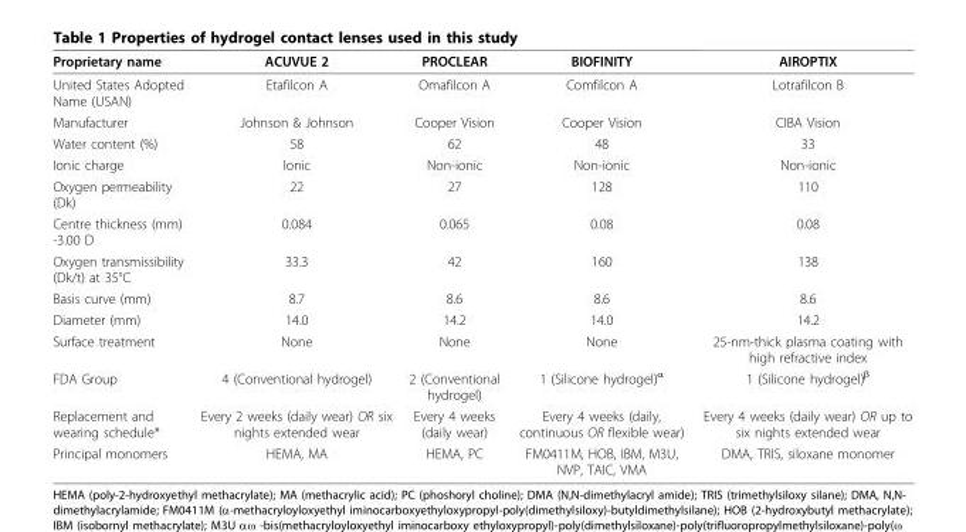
<table><thead><tr><td>Proprietary name</td><td>ACUVUE 2</td><td>PROCLEAR</td><td>BIOFINITY</td><td>AIROPTIX</td></tr></thead><tbody><tr><td>United States Adopted Name (USAN)</td><td>Etafilcon A</td><td>Omafilcon A</td><td>Comfilcon A</td><td>Lotrafilcon B</td></tr><tr><td>Manufacturer</td><td>Johnson &amp; Johnson</td><td>Cooper Vision</td><td>Cooper Vision</td><td>CIBA Vision</td></tr><tr><td>Water content (%)</td><td>58</td><td>62</td><td>48</td><td>33</td></tr><tr><td>Ionic charge</td><td>Ionic</td><td>Non-ionic</td><td>Non-ionic</td><td>Non-ionic</td></tr><tr><td>Oxygen permeability (Dk)</td><td>22</td><td>27</td><td>128</td><td>110</td></tr><tr><td>Centre thickness (mm) -3.00 D</td><td>0.084</td><td>0.065</td><td>0.08</td><td>0.08</td></tr><tr><td>Oxygen transmissibility (Dk/t) at 35°C</td><td>33.3</td><td>42</td><td>160</td><td>138</td></tr><tr><td>Basis curve (mm)</td><td>8.7</td><td>8.6</td><td>8.6</td><td>8.6</td></tr><tr><td>Diameter (mm)</td><td>14.0</td><td>14.2</td><td>14.0</td><td>14.2</td></tr><tr><td>Surface treatment</td><td>None</td><td>None</td><td>None</td><td>25-nm-thick plasma coating with high refractive index</td></tr><tr><td>FDA Group</td><td>4 (Conventional hydrogel)</td><td>2 (Conventional hydrogel)</td><td>1 (Silicone hydrogel)<sup>α</sup></td><td>1 (Silicone hydrogel)<sup>β</sup></td></tr><tr><td>Replacement and wearing schedule*</td><td>Every 2 weeks (daily wear) OR six nights extended wear</td><td>Every 4 weeks (daily wear)</td><td>Every 4 weeks (daily, continuous OR flexible wear)</td><td>Every 4 weeks (daily wear) OR up to six nights extended wear</td></tr><tr><td>Principal monomers</td><td>HEMA, MA</td><td>HEMA, PC</td><td>FM0411M, HOB, IBM, M3U, NVP, TAIC, VMA</td><td>DMA, TRIS, siloxane monomer</td></tr></tbody></table>